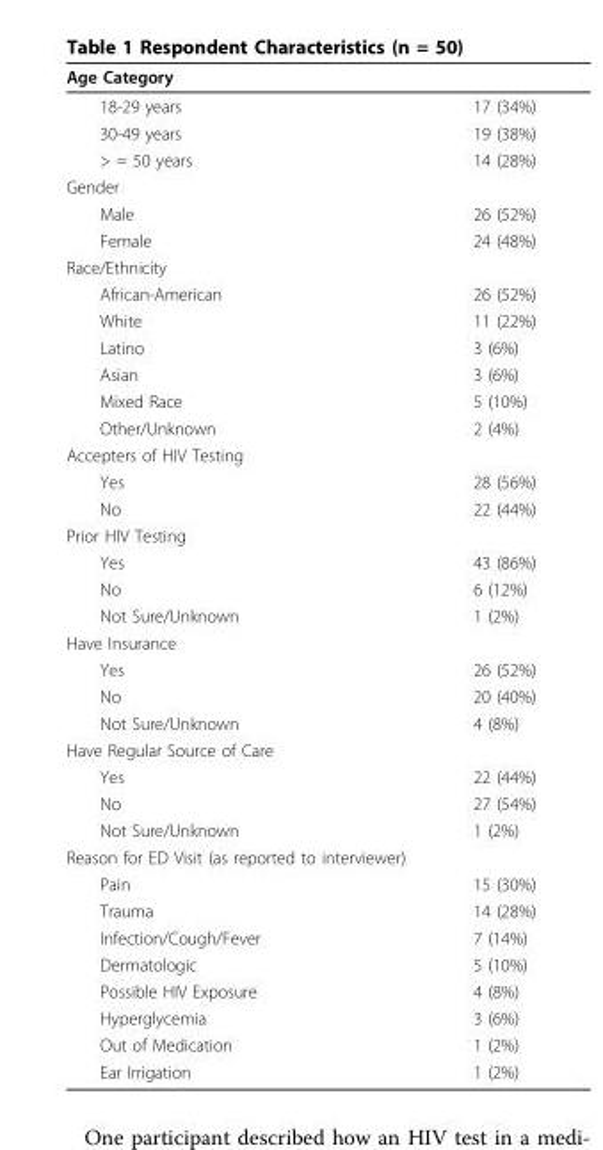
<table><thead><tr><td>Age Category</td><td></td></tr></thead><tbody><tr><td>18-29 years</td><td>17 (34%)</td></tr><tr><td>30-49 years</td><td>19 (38%)</td></tr><tr><td>&gt; = 50 years</td><td>14 (28%)</td></tr><tr><td colspan="2">Gender</td></tr><tr><td>Male</td><td>26 (52%)</td></tr><tr><td>Female</td><td>24 (48%)</td></tr><tr><td colspan="2">Race/Ethnicity</td></tr><tr><td>African-American</td><td>26 (52%)</td></tr><tr><td>White</td><td>11 (22%)</td></tr><tr><td>Latino</td><td>3 (6%)</td></tr><tr><td>Asian</td><td>3 (6%)</td></tr><tr><td>Mixed Race</td><td>5 (10%)</td></tr><tr><td>Other/Unknown</td><td>2 (4%)</td></tr><tr><td colspan="2">Accepters of HIV Testing</td></tr><tr><td>Yes</td><td>28 (56%)</td></tr><tr><td>No</td><td>22 (44%)</td></tr><tr><td colspan="2">Prior HIV Testing</td></tr><tr><td>Yes</td><td>43 (86%)</td></tr><tr><td>No</td><td>6 (12%)</td></tr><tr><td>Not Sure/Unknown</td><td>1 (2%)</td></tr><tr><td colspan="2">Have Insurance</td></tr><tr><td>Yes</td><td>26 (52%)</td></tr><tr><td>No</td><td>20 (40%)</td></tr><tr><td>Not Sure/Unknown</td><td>4 (8%)</td></tr><tr><td colspan="2">Have Regular Source of Care</td></tr><tr><td>Yes</td><td>22 (44%)</td></tr><tr><td>No</td><td>27 (54%)</td></tr><tr><td>Not Sure/Unknown</td><td>1 (2%)</td></tr><tr><td colspan="2">Reason for ED Visit (as reported to interviewer)</td></tr><tr><td>Pain</td><td>15 (30%)</td></tr><tr><td>Trauma</td><td>14 (28%)</td></tr><tr><td>Infection/Cough/Fever</td><td>7 (14%)</td></tr><tr><td>Dermatologic</td><td>5 (10%)</td></tr><tr><td>Possible HIV Exposure</td><td>4 (8%)</td></tr><tr><td>Hyperglycemia</td><td>3 (6%)</td></tr><tr><td>Out of Medication</td><td>1 (2%)</td></tr><tr><td>Ear Irrigation</td><td>1 (2%)</td></tr></tbody></table>